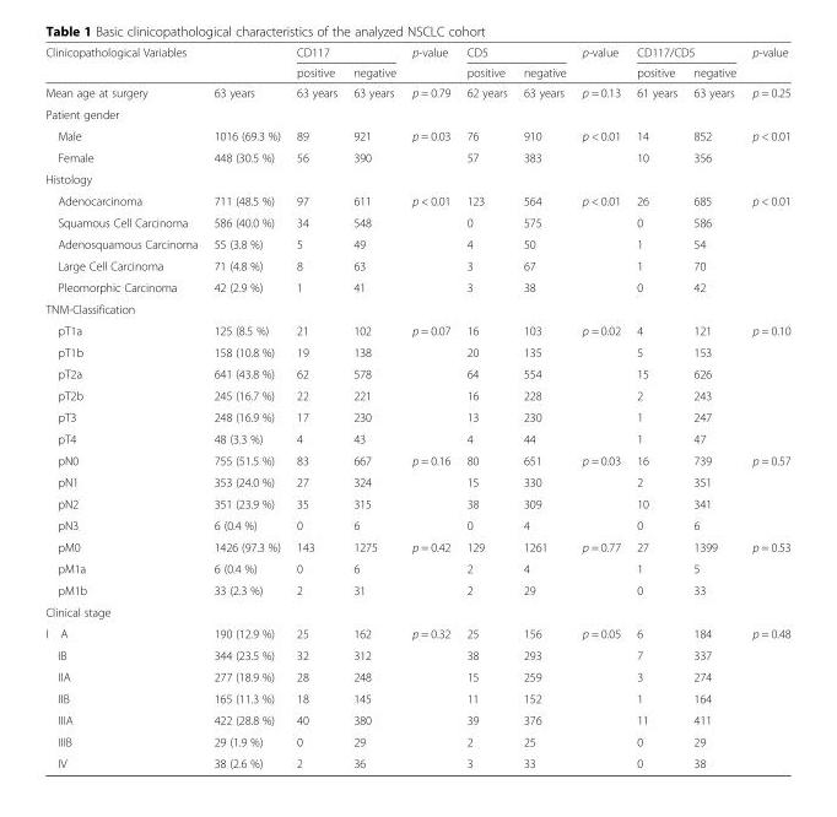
<table><thead><tr><td rowspan="2" colspan="2">Clinicopathological Variables</td><td colspan="2">CD117</td><td rowspan="3">p-value p = 0.79</td><td colspan="2">CD5</td><td rowspan="3">p-value p = 0.13</td><td colspan="2">CD117/CD5</td><td rowspan="3">p-value p = 0.25</td></tr><tr><td rowspan="2">positive 63 years</td><td rowspan="2">negative 63 years</td><td rowspan="2">positive 62 years</td><td rowspan="2">negative 63 years</td><td rowspan="2">positive 61 years</td><td rowspan="2">negative 63 years</td></tr><tr><td>Mean age at surgery</td><td>63 years</td></tr></thead><tbody><tr><td colspan="11">Patient gender</td></tr><tr><td>Male</td><td>1016 (69.3 %)</td><td>89</td><td>921</td><td rowspan="2">p = 0.03</td><td>76</td><td>910</td><td rowspan="2">p &lt; 0.01</td><td>14</td><td>852</td><td rowspan="2">p &lt; 0.01</td></tr><tr><td>Female</td><td>448 (30.5 %)</td><td>56</td><td>390</td><td>57</td><td>383</td><td>10</td><td>356</td></tr><tr><td colspan="11">Histology</td></tr><tr><td>Adenocarcinoma</td><td>711 (48.5 %)</td><td>97</td><td>611</td><td rowspan="5">p &lt; 0.01</td><td>123</td><td>564</td><td rowspan="5">p &lt; 0.01</td><td>26</td><td>685</td><td rowspan="5">p &lt; 0.01</td></tr><tr><td>Squamous Cell Carcinoma</td><td>586 (40.0 %)</td><td>34</td><td>548</td><td>0</td><td>575</td><td>0</td><td>586</td></tr><tr><td>Adenosquamous Carcinoma</td><td>55 (3.8 %)</td><td>5</td><td>49</td><td>4</td><td>50</td><td>1</td><td>54</td></tr><tr><td>Large Cell Carcinoma</td><td>71 (4.8 %)</td><td>8</td><td>63</td><td>3</td><td>67</td><td>1</td><td>70</td></tr><tr><td>Pleomorphic Carcinoma</td><td>42 (2.9 %)</td><td>1</td><td>41</td><td>3</td><td>38</td><td>0</td><td>42</td></tr><tr><td colspan="11">TNM-Classification</td></tr><tr><td>pT1a</td><td>125 (8.5 %)</td><td>21</td><td>102</td><td rowspan="6">p = 0.07</td><td>16</td><td>103</td><td rowspan="6">p = 0.02</td><td>4</td><td>121</td><td rowspan="6">p = 0.10</td></tr><tr><td>pT1b</td><td>158 (10.8 %)</td><td>19</td><td>138</td><td>20</td><td>135</td><td>5</td><td>153</td></tr><tr><td>pT2a</td><td>641 (43.8 %)</td><td>62</td><td>578</td><td>64</td><td>554</td><td>15</td><td>626</td></tr><tr><td>pT2b</td><td>245 (16.7 %)</td><td>22</td><td>221</td><td>16</td><td>228</td><td>2</td><td>243</td></tr><tr><td>pT3</td><td>248 (16.9 %)</td><td>17</td><td>230</td><td>13</td><td>230</td><td>1</td><td>247</td></tr><tr><td>pT4</td><td>48 (3.3 %)</td><td>4</td><td>43</td><td>4</td><td>44</td><td>1</td><td>47</td></tr><tr><td>pN0</td><td>755 (51.5 %)</td><td>83</td><td>667</td><td rowspan="4">p = 0.16</td><td>80</td><td>651</td><td rowspan="4">p = 0.03</td><td>16</td><td>739</td><td rowspan="4">p = 0.57</td></tr><tr><td>pN1</td><td>353 (24.0 %)</td><td>27</td><td>324</td><td>15</td><td>330</td><td>2</td><td>351</td></tr><tr><td>pN2</td><td>351 (23.9 %)</td><td>35</td><td>315</td><td>38</td><td>309</td><td>10</td><td>341</td></tr><tr><td>pN3</td><td>6 (0.4 %)</td><td>0</td><td>6</td><td>0</td><td>4</td><td>0</td><td>6</td></tr><tr><td>pM0</td><td>1426 (97.3 %)</td><td>143</td><td>1275</td><td rowspan="3">p = 0.42</td><td>129</td><td>1261</td><td rowspan="3">p = 0.77</td><td>27</td><td>1399</td><td rowspan="3">p = 0.53</td></tr><tr><td>pM1a</td><td>6 (0.4 %)</td><td>0</td><td>6</td><td>2</td><td>4</td><td>1</td><td>5</td></tr><tr><td>pM1b</td><td>33 (2.3 %)</td><td>2</td><td>31</td><td>2</td><td>29</td><td>0</td><td>33</td></tr><tr><td colspan="11">Clinical stage</td></tr><tr><td>I A</td><td>190 (12.9 %)</td><td>25</td><td>162</td><td rowspan="7">p = 0.32</td><td>25</td><td>156</td><td rowspan="7">p = 0.05</td><td>6</td><td>184</td><td rowspan="7">p = 0.48</td></tr><tr><td>IB</td><td>344 (23.5 %)</td><td>32</td><td>312</td><td>38</td><td>293</td><td>7</td><td>337</td></tr><tr><td>IIA</td><td>277 (18.9 %)</td><td>28</td><td>248</td><td>15</td><td>259</td><td>3</td><td>274</td></tr><tr><td>IIB</td><td>165 (11.3 %)</td><td>18</td><td>145</td><td>11</td><td>152</td><td>1</td><td>164</td></tr><tr><td>IIIA</td><td>422 (28.8 %)</td><td>40</td><td>380</td><td>39</td><td>376</td><td>11</td><td>411</td></tr><tr><td>IIIB</td><td>29 (1.9 %)</td><td>0</td><td>29</td><td>2</td><td>25</td><td>0</td><td>29</td></tr><tr><td>IV</td><td>38 (2.6 %)</td><td>2</td><td>36</td><td>3</td><td>33</td><td>0</td><td>38</td></tr></tbody></table>